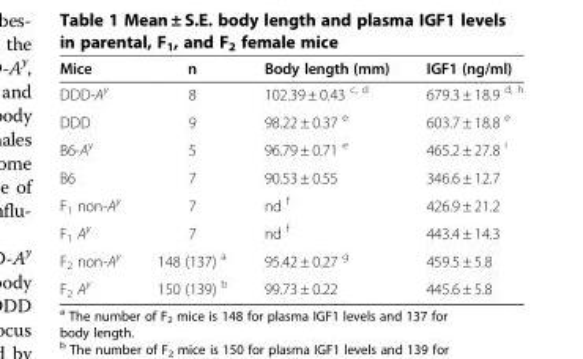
<table><thead><tr><td>Mice</td><td>n</td><td>Body length (mm)</td><td>IGF1 (ng/ml)</td></tr></thead><tbody><tr><td>DDD-A<sup>y</sup></td><td>8</td><td>102.39 ± 0.43 <sup>c, d</sup></td><td>679.3 ± 18.9 <sup>d, h</sup></td></tr><tr><td>DDD</td><td>9</td><td>98.22 ± 0.37 <sup>e</sup></td><td>603.7 ± 18.8 <sup>e</sup></td></tr><tr><td>B6-A<sup>y</sup></td><td>5</td><td>96.79 ± 0.71 <sup>e</sup></td><td>465.2 ± 27.8 <sup>i</sup></td></tr><tr><td>B6</td><td>7</td><td>90.53 ± 0.55</td><td>346.6 ± 12.7</td></tr><tr><td>F<sub>1</sub> non-A<sup>y</sup></td><td>7</td><td>nd <sup>f</sup></td><td>426.9 ± 21.2</td></tr><tr><td>F<sub>1</sub> A<sup>y</sup></td><td>7</td><td>nd <sup>f</sup></td><td>443.4 ± 14.3</td></tr><tr><td>F<sub>2</sub> non-A<sup>y</sup></td><td>148 (137) <sup>a</sup></td><td>95.42 ± 0.27 <sup>g</sup></td><td>459.5 ± 5.8</td></tr><tr><td>F<sub>2</sub> A<sup>y</sup></td><td>150 (139) <sup>b</sup></td><td>99.73 ± 0.22</td><td>445.6 ± 5.8</td></tr></tbody></table>